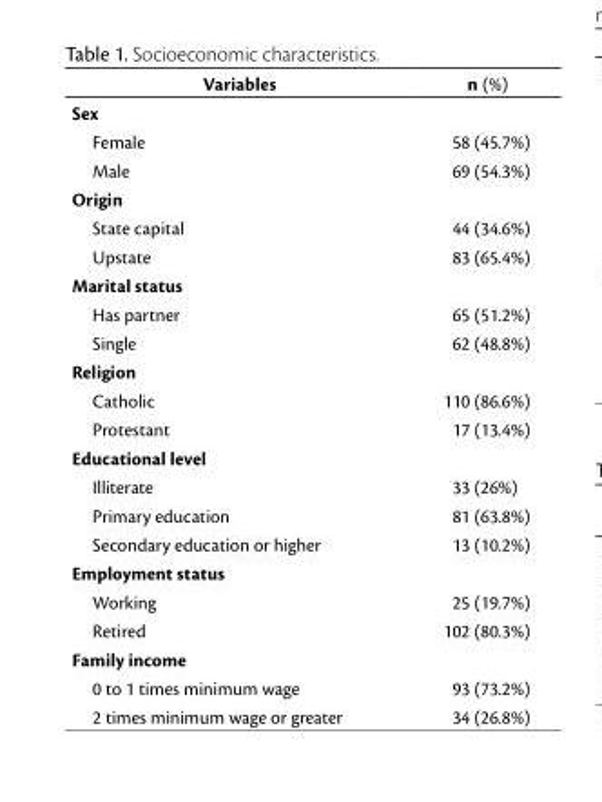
<table><thead><tr><td>Variables</td><td>n (%)</td></tr></thead><tbody><tr><td colspan="2">Sex</td></tr><tr><td>Female</td><td>58 (45.7%)</td></tr><tr><td>Male</td><td>69 (54.3%)</td></tr><tr><td colspan="2">Origin</td></tr><tr><td>State capital</td><td>44 (34.6%)</td></tr><tr><td>Upstate</td><td>83 (65.4%)</td></tr><tr><td colspan="2">Marital status</td></tr><tr><td>Has partner</td><td>65 (51.2%)</td></tr><tr><td>Single</td><td>62 (48.8%)</td></tr><tr><td colspan="2">Religion</td></tr><tr><td>Catholic</td><td>110 (86.6%)</td></tr><tr><td>Protestant</td><td>17 (13.4%)</td></tr><tr><td colspan="2">Educational level</td></tr><tr><td>Illiterate</td><td>33 (26%)</td></tr><tr><td>Primary education</td><td>81 (63.8%)</td></tr><tr><td>Secondary education or higher</td><td>13 (10.2%)</td></tr><tr><td colspan="2">Employment status</td></tr><tr><td>Working</td><td>25 (19.7%)</td></tr><tr><td>Retired</td><td>102 (80.3%)</td></tr><tr><td colspan="2">Family income</td></tr><tr><td>0 to 1 times minimum wage</td><td>93 (73.2%)</td></tr><tr><td>2 times minimum wage or greater</td><td>34 (26.8%)</td></tr></tbody></table>